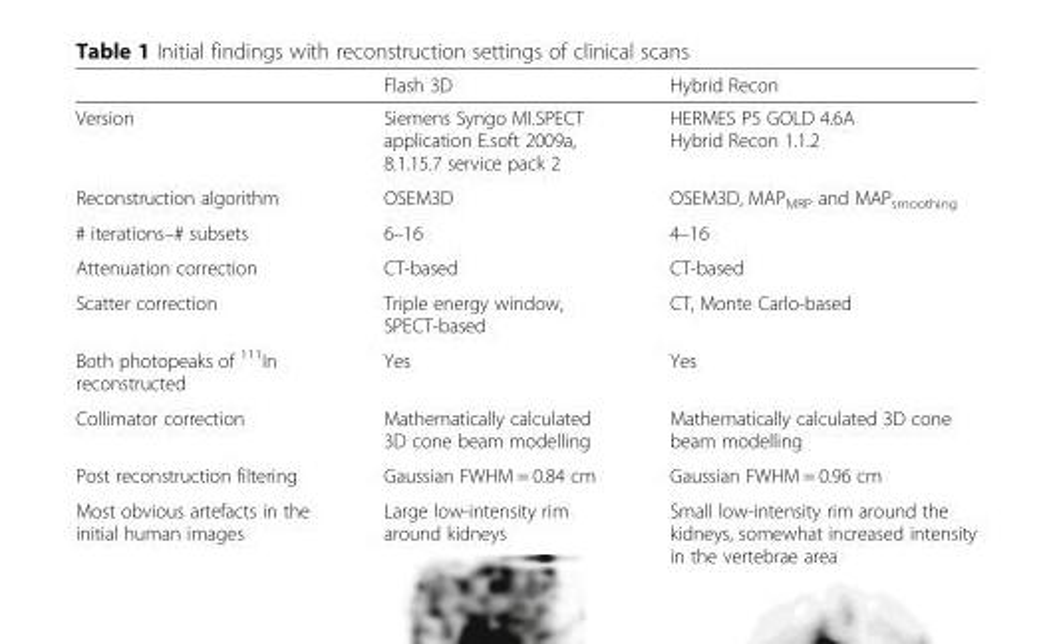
<table><thead><tr><td></td><td>Flash 3D</td><td>Hybrid Recon</td></tr></thead><tbody><tr><td>Version</td><td>Siemens Syngo MI.SPECT application E.soft 2009a, 8.1.15.7 service pack 2</td><td>HERMES P5 GOLD 4.6A Hybrid Recon 1.1.2</td></tr><tr><td>Reconstruction algorithm</td><td>OSEM3D</td><td>OSEM3D, MAP<sub>MRP</sub> and MAP<sub>smoothing</sub></td></tr><tr><td># iterations–# subsets</td><td>6–16</td><td>4–16</td></tr><tr><td>Attenuation correction</td><td>CT-based</td><td>CT-based</td></tr><tr><td>Scatter correction</td><td>Triple energy window, SPECT-based</td><td>CT, Monte Carlo-based</td></tr><tr><td>Both photopeaks of <sup>111</sup>In reconstructed</td><td>Yes</td><td>Yes</td></tr><tr><td>Collimator correction</td><td>Mathematically calculated 3D cone beam modelling</td><td>Mathematically calculated 3D cone beam modelling</td></tr><tr><td>Post reconstruction filtering</td><td>Gaussian FWHM = 0.84 cm</td><td>Gaussian FWHM = 0.96 cm</td></tr><tr><td>Most obvious artefacts in the initial human images</td><td>Large low-intensity rim around kidneys</td><td>Small low-intensity rim around the kidneys, somewhat increased intensity in the vertebrae area</td></tr></tbody></table>